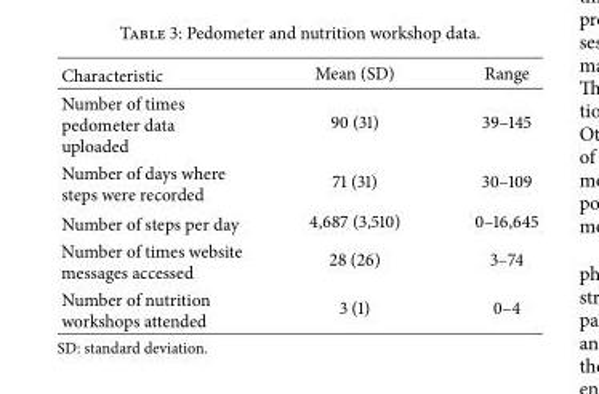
<table><thead><tr><td>Characteristic</td><td>Mean (SD)</td><td>Range</td></tr></thead><tbody><tr><td>Number of times pedometer data uploaded</td><td>90 (31)</td><td>39–145</td></tr><tr><td>Number of days where steps were recorded</td><td>71 (31)</td><td>30–109</td></tr><tr><td>Number of steps per day</td><td>4,687 (3,510)</td><td>0–16,645</td></tr><tr><td>Number of times website messages accessed</td><td>28 (26)</td><td>3–74</td></tr><tr><td>Number of nutrition workshops attended</td><td>3 (1)</td><td>0–4</td></tr></tbody></table>